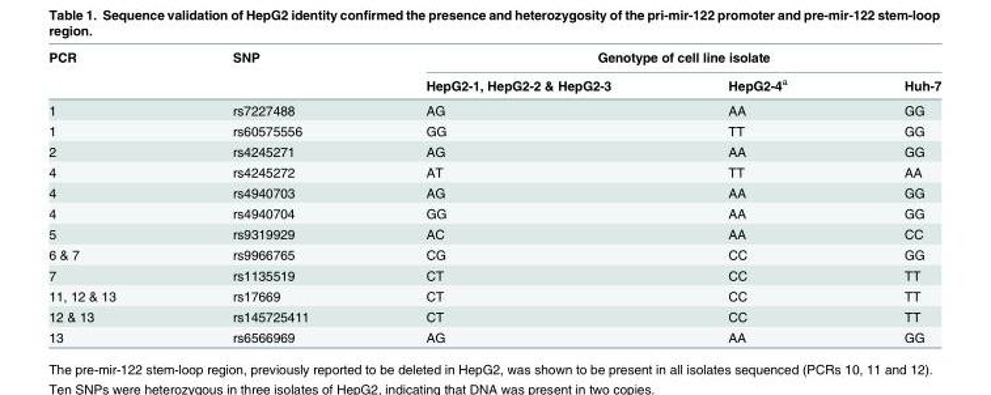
<table><thead><tr><td rowspan="2">PCR</td><td rowspan="2">SNP</td><td colspan="3">Genotype of cell line isolate</td></tr><tr><td>HepG2-1, HepG2-2 &amp; HepG2-3</td><td>HepG2-4<sup>a</sup></td><td>Huh-7</td></tr></thead><tbody><tr><td>1</td><td>rs7227488</td><td>AG</td><td>AA</td><td>GG</td></tr><tr><td>1</td><td>rs60575556</td><td>GG</td><td>TT</td><td>GG</td></tr><tr><td>2</td><td>rs4245271</td><td>AG</td><td>AA</td><td>GG</td></tr><tr><td>4</td><td>rs4245272</td><td>AT</td><td>TT</td><td>AA</td></tr><tr><td>4</td><td>rs4940703</td><td>AG</td><td>AA</td><td>GG</td></tr><tr><td>4</td><td>rs4940704</td><td>GG</td><td>AA</td><td>GG</td></tr><tr><td>5</td><td>rs9319929</td><td>AC</td><td>AA</td><td>CC</td></tr><tr><td>6 &amp; 7</td><td>rs9966765</td><td>CG</td><td>CC</td><td>GG</td></tr><tr><td>7</td><td>rs1135519</td><td>CT</td><td>CC</td><td>TT</td></tr><tr><td>11, 12 &amp; 13</td><td>rs17669</td><td>CT</td><td>CC</td><td>TT</td></tr><tr><td>12 &amp; 13</td><td>rs145725411</td><td>CT</td><td>CC</td><td>TT</td></tr><tr><td>13</td><td>rs6566969</td><td>AG</td><td>AA</td><td>GG</td></tr></tbody></table>